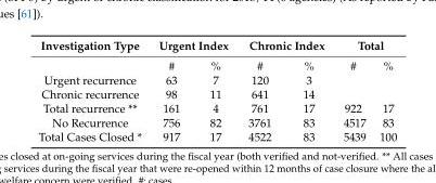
<table><thead><tr><td rowspan="2">Investigation Type</td><td colspan="2">Urgent Index</td><td colspan="2">Chronic Index</td><td colspan="2">Total</td></tr><tr><td>#</td><td>%</td><td>#</td><td>%</td><td>#</td><td>%</td></tr></thead><tbody><tr><td>Urgent recurrence</td><td>63</td><td>7</td><td>120</td><td>3</td><td></td><td></td></tr><tr><td>Chronic recurrence</td><td>98</td><td>11</td><td>641</td><td>14</td><td></td><td></td></tr><tr><td>Total recurrence **</td><td>161</td><td>4</td><td>761</td><td>17</td><td>922</td><td>17</td></tr><tr><td>No Recurrence</td><td>756</td><td>82</td><td>3761</td><td>83</td><td>4517</td><td>83</td></tr><tr><td>Total Cases Closed *</td><td>917</td><td>17</td><td>4522</td><td>83</td><td>5439</td><td>100</td></tr></tbody></table>